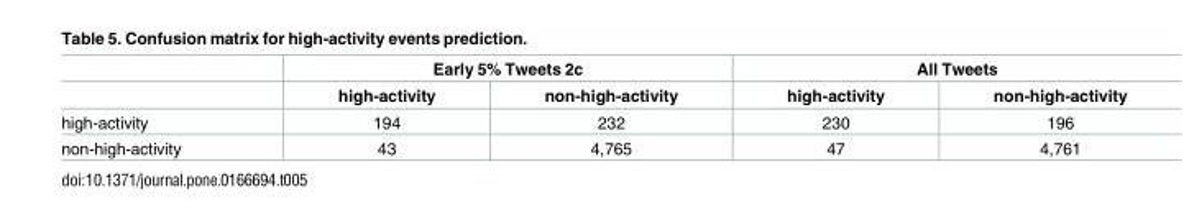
<table><thead><tr><td rowspan="2"></td><td colspan="2">Early 5% Tweets 2c</td><td colspan="2">All Tweets</td></tr><tr><td>high-activity</td><td>non-high-activity</td><td>high-activity</td><td>non-high-activity</td></tr></thead><tbody><tr><td>high-activity</td><td>194</td><td>232</td><td>230</td><td>196</td></tr><tr><td>non-high-activity</td><td>43</td><td>4,765</td><td>47</td><td>4,761</td></tr></tbody></table>